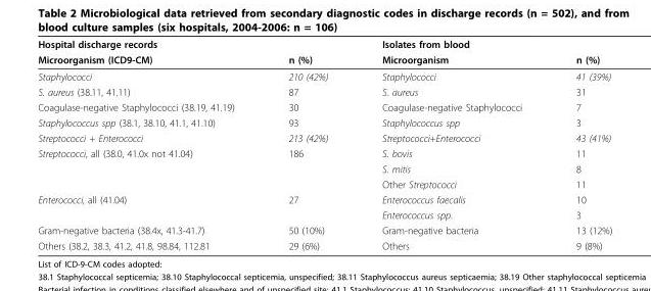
<table><thead><tr><td colspan="2">Hospital discharge records</td><td colspan="2">Isolates from blood</td></tr><tr><td>Microorganism (ICD9-CM)</td><td>n (%)</td><td>Microorganism</td><td>n (%)</td></tr></thead><tbody><tr><td>Staphylococci</td><td>210 (42%)</td><td>Staphylococci</td><td>41 (39%)</td></tr><tr><td>S. aureus (38.11, 41.11)</td><td>87</td><td>S. aureus</td><td>31</td></tr><tr><td>Coagulase-negative Staphylococci (38.19, 41.19)</td><td>30</td><td>Coagulase-negative Staphylococci</td><td>7</td></tr><tr><td>Staphylococcus spp (38.1, 38.10, 41.1, 41.10)</td><td>93</td><td>Staphylococcus spp</td><td>3</td></tr><tr><td>Streptococci + Enterococci</td><td>213 (42%)</td><td>Streptococci+Enterococci</td><td>43 (41%)</td></tr><tr><td rowspan="3">Streptococci, all (38.0, 41.0x not 41.04)</td><td>186</td><td>S. bovis</td><td>11</td></tr><tr><td></td><td>S. mitis</td><td>8</td></tr><tr><td></td><td>Other Streptococci</td><td>11</td></tr><tr><td rowspan="2">Enterococci, all (41.04)</td><td>27</td><td>Enterococcus faecalis</td><td>10</td></tr><tr><td></td><td>Enterococcus spp.</td><td>3</td></tr><tr><td>Gram-negative bacteria (38.4x, 41.3-41.7)</td><td>50 (10%)</td><td>Gram-negative bacteria</td><td>13 (12%)</td></tr><tr><td>Others (38.2, 38.3, 41.2, 41.8, 98.84, 112.81</td><td>29 (6%)</td><td>Others</td><td>9 (8%)</td></tr></tbody></table>